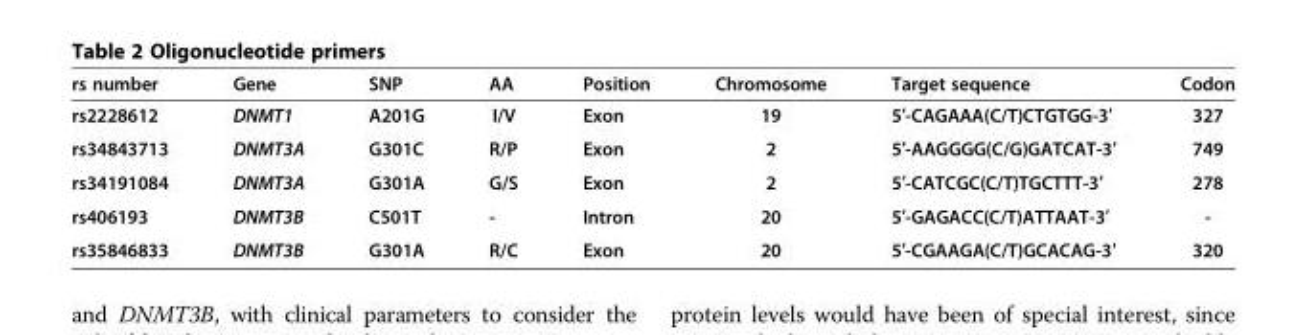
<table><thead><tr><td>rs number</td><td>Gene</td><td>SNP</td><td>AA</td><td>Position</td><td>Chromosome</td><td>Target sequence</td><td>Codon</td></tr></thead><tbody><tr><td>rs2228612</td><td>DNMT1</td><td>A201G</td><td>I/V</td><td>Exon</td><td>19</td><td>5′-CAGAAA(C/T)CTGTGG-3′</td><td>327</td></tr><tr><td>rs34843713</td><td>DNMT3A</td><td>G301C</td><td>R/P</td><td>Exon</td><td>2</td><td>5′-AAGGGG(C/G)GATCAT-3′</td><td>749</td></tr><tr><td>rs34191084</td><td>DNMT3A</td><td>G301A</td><td>G/S</td><td>Exon</td><td>2</td><td>5′-CATCGC(C/T)TGCTTT-3′</td><td>278</td></tr><tr><td>rs406193</td><td>DNMT3B</td><td>C501T</td><td>-</td><td>Intron</td><td>20</td><td>5′-GAGACC(C/T)ATTAAT-3′</td><td>-</td></tr><tr><td>rs35846833</td><td>DNMT3B</td><td>G301A</td><td>R/C</td><td>Exon</td><td>20</td><td>5′-CGAAGA(C/T)GCACAG-3′</td><td>320</td></tr></tbody></table>